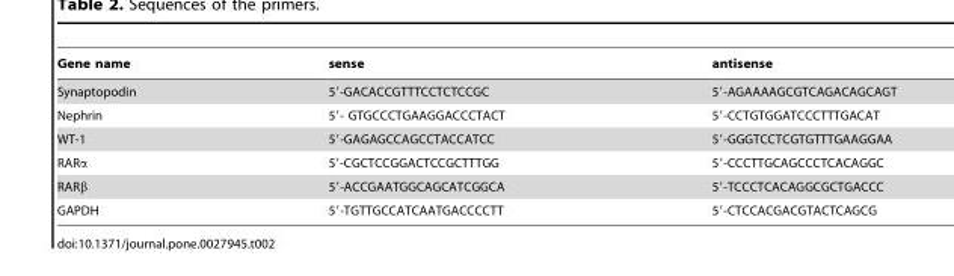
<table><thead><tr><td>Gene name</td><td>sense</td><td>antisense</td></tr></thead><tbody><tr><td>Synaptopodin</td><td>5′-GACACCGTTTCCTCTCCGC</td><td>5′-AGAAAAGCGTCAGACAGCAGT</td></tr><tr><td>Nephrin</td><td>5′- GTGCCCTGAAGGACCCTACT</td><td>5′-CCTGTGGATCCCTTTGACAT</td></tr><tr><td>WT-1</td><td>5′-GAGAGCCAGCCTACCATCC</td><td>5′-GGGTCCTCGTGTTTGAAGGAA</td></tr><tr><td>RARα</td><td>5′-CGCTCCGGACTCCGCTTTGG</td><td>5′-CCCTTGCAGCCCTCACAGGC</td></tr><tr><td>RARβ</td><td>5′-ACCGAATGGCAGCATCGGCA</td><td>5′-TCCCTCACAGGCGCTGACCC</td></tr><tr><td>GAPDH</td><td>5′-TGTTGCCATCAATGACCCCTT</td><td>5′-CTCCACGACGTACTCAGCG</td></tr></tbody></table>